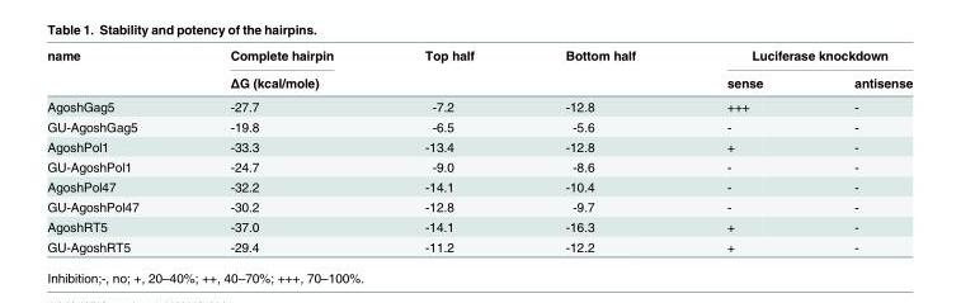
<table><thead><tr><td rowspan="2">name</td><td rowspan="2">Complete hairpin ΔG (kcal/mole)</td><td rowspan="2">Top half</td><td rowspan="2">Bottom half</td><td colspan="2">Luciferase knockdown</td></tr><tr><td>sense</td><td>antisense</td></tr></thead><tbody><tr><td>AgoshGag5</td><td>-27.7</td><td>-7.2</td><td>-12.8</td><td>+++</td><td>-</td></tr><tr><td>GU-AgoshGag5</td><td>-19.8</td><td>-6.5</td><td>-5.6</td><td>-</td><td>-</td></tr><tr><td>AgoshPol1</td><td>-33.3</td><td>-13.4</td><td>-12.8</td><td>+</td><td>-</td></tr><tr><td>GU-AgoshPol1</td><td>-24.7</td><td>-9.0</td><td>-8.6</td><td>-</td><td>-</td></tr><tr><td>AgoshPol47</td><td>-32.2</td><td>-14.1</td><td>-10.4</td><td>-</td><td>-</td></tr><tr><td>GU-AgoshPol47</td><td>-30.2</td><td>-12.8</td><td>-9.7</td><td>-</td><td>-</td></tr><tr><td>AgoshRT5</td><td>-37.0</td><td>-14.1</td><td>-16.3</td><td>+</td><td>-</td></tr><tr><td>GU-AgoshRT5</td><td>-29.4</td><td>-11.2</td><td>-12.2</td><td>+</td><td>-</td></tr></tbody></table>